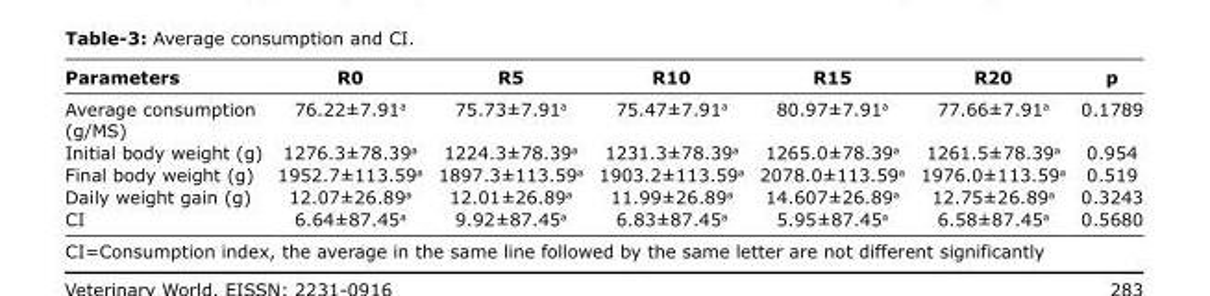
<table><thead><tr><td>Parameters</td><td>R0</td><td>R5</td><td>R10</td><td>R15</td><td>R20</td><td>p</td></tr></thead><tbody><tr><td>Average consumption (g/MS)</td><td>76.22±7.91<sup>a</sup></td><td>75.73±7.91<sup>a</sup></td><td>75.47±7.91<sup>a</sup></td><td>80.97±7.91<sup>a</sup></td><td>77.66±7.91<sup>a</sup></td><td>0.1789</td></tr><tr><td>Initial body weight (g)</td><td>1276.3±78.39<sup>a</sup></td><td>1224.3±78.39<sup>a</sup></td><td>1231.3±78.39<sup>a</sup></td><td>1265.0±78.39<sup>a</sup></td><td>1261.5±78.39<sup>a</sup></td><td>0.954</td></tr><tr><td>Final body weight (g)</td><td>1952.7±113.59<sup>a</sup></td><td>1897.3±113.59<sup>a</sup></td><td>1903.2±113.59<sup>a</sup></td><td>2078.0±113.59<sup>a</sup></td><td>1976.0±113.59<sup>a</sup></td><td>0.519</td></tr><tr><td>Daily weight gain (g)</td><td>12.07±26.89<sup>a</sup></td><td>12.01±26.89<sup>a</sup></td><td>11.99±26.89<sup>a</sup></td><td>14.607±26.89<sup>a</sup></td><td>12.75±26.89<sup>a</sup></td><td>0.3243</td></tr><tr><td>CI</td><td>6.64±87.45<sup>a</sup></td><td>9.92±87.45<sup>a</sup></td><td>6.83±87.45<sup>a</sup></td><td>5.95±87.45<sup>a</sup></td><td>6.58±87.45<sup>a</sup></td><td>0.5680</td></tr></tbody></table>